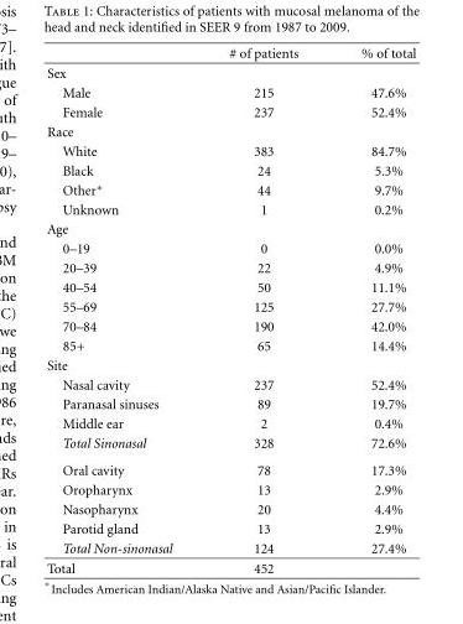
<table><thead><tr><td></td><td># of patients</td><td>% of total</td></tr></thead><tbody><tr><td colspan="3">Sex</td></tr><tr><td>Male</td><td>215</td><td>47.6%</td></tr><tr><td>Female</td><td>237</td><td>52.4%</td></tr><tr><td colspan="3">Race</td></tr><tr><td>White</td><td>383</td><td>84.7%</td></tr><tr><td>Black</td><td>24</td><td>5.3%</td></tr><tr><td>Other∗</td><td>44</td><td>9.7%</td></tr><tr><td>Unknown</td><td>1</td><td>0.2%</td></tr><tr><td colspan="3">Age</td></tr><tr><td>0–19</td><td>0</td><td>0.0%</td></tr><tr><td>20–39</td><td>22</td><td>4.9%</td></tr><tr><td>40–54</td><td>50</td><td>11.1%</td></tr><tr><td>55–69</td><td>125</td><td>27.7%</td></tr><tr><td>70–84</td><td>190</td><td>42.0%</td></tr><tr><td>85+</td><td>65</td><td>14.4%</td></tr><tr><td colspan="3">Site</td></tr><tr><td>Nasal cavity</td><td>237</td><td>52.4%</td></tr><tr><td>Paranasal sinuses</td><td>89</td><td>19.7%</td></tr><tr><td>Middle ear</td><td>2</td><td>0.4%</td></tr><tr><td>Total Sinonasal</td><td>328</td><td>72.6%</td></tr><tr><td>Oral cavity</td><td>78</td><td>17.3%</td></tr><tr><td>Oropharynx</td><td>13</td><td>2.9%</td></tr><tr><td>Nasopharynx</td><td>20</td><td>4.4%</td></tr><tr><td>Parotid gland</td><td>13</td><td>2.9%</td></tr><tr><td>Total Non-sinonasal</td><td>124</td><td>27.4%</td></tr><tr><td>Total</td><td>452</td><td></td></tr></tbody></table>